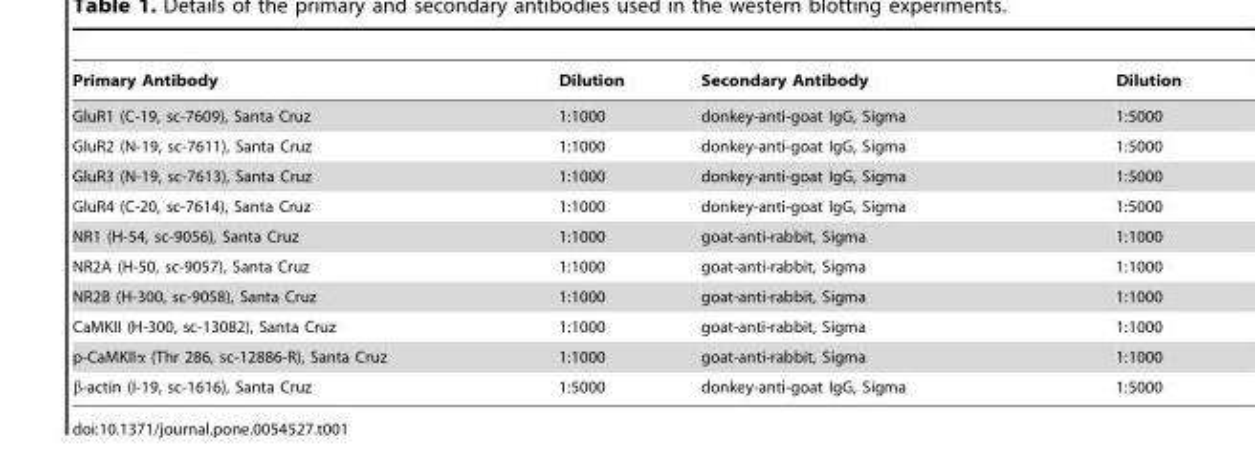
<table><thead><tr><td>Primary Antibody</td><td>Dilution</td><td>Secondary Antibody</td><td>Dilution</td></tr></thead><tbody><tr><td>GluR1 (C-19, sc-7609), Santa Cruz</td><td>1:1000</td><td>donkey-anti-goat IgG, Sigma</td><td>1:5000</td></tr><tr><td>GluR2 (N-19, sc-7611), Santa Cruz</td><td>1:1000</td><td>donkey-anti-goat IgG, Sigma</td><td>1:5000</td></tr><tr><td>GluR3 (N-19, sc-7613), Santa Cruz</td><td>1:1000</td><td>donkey-anti-goat IgG, Sigma</td><td>1:5000</td></tr><tr><td>GluR4 (C-20, sc-7614), Santa Cruz</td><td>1:1000</td><td>donkey-anti-goat IgG, Sigma</td><td>1:5000</td></tr><tr><td>NR1 (H-54, sc-9056), Santa Cruz</td><td>1:1000</td><td>goat-anti-rabbit, Sigma</td><td>1:1000</td></tr><tr><td>NR2A (H-50, sc-9057), Santa Cruz</td><td>1:1000</td><td>goat-anti-rabbit, Sigma</td><td>1:1000</td></tr><tr><td>NR2B (H-300, sc-9058), Santa Cruz</td><td>1:1000</td><td>goat-anti-rabbit, Sigma</td><td>1:1000</td></tr><tr><td>CaMKII (H-300, sc-13082), Santa Cruz</td><td>1:1000</td><td>goat-anti-rabbit, Sigma</td><td>1:1000</td></tr><tr><td>p-CaMKIIα (Thr 286, sc-12886-R), Santa Cruz</td><td>1:1000</td><td>goat-anti-rabbit, Sigma</td><td>1:1000</td></tr><tr><td>β-actin (I-19, sc-1616), Santa Cruz</td><td>1:5000</td><td>donkey-anti-goat IgG, Sigma</td><td>1:5000</td></tr></tbody></table>